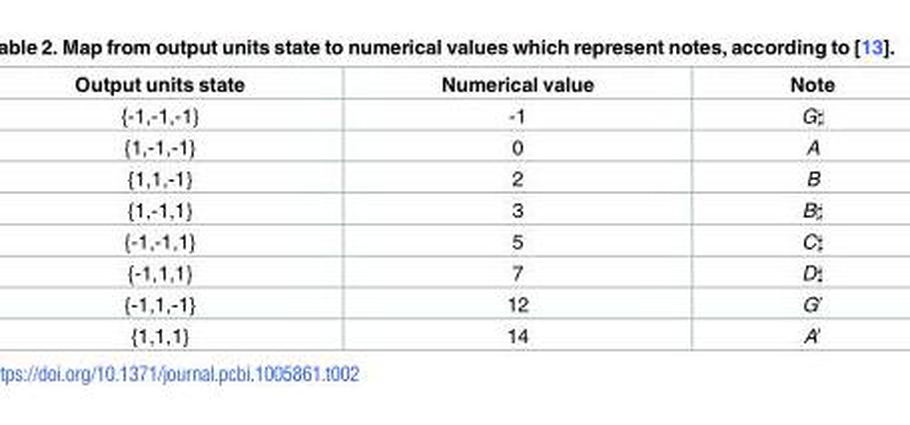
<table><thead><tr><td>Output units state</td><td>Numerical value</td><td>Note</td></tr></thead><tbody><tr><td>{-1,-1,-1}</td><td>-1</td><td>G♯</td></tr><tr><td>{1,-1,-1}</td><td>0</td><td>A</td></tr><tr><td>{1,1,-1}</td><td>2</td><td>B</td></tr><tr><td>{1,-1,1}</td><td>3</td><td>B♯</td></tr><tr><td>{-1,-1,1}</td><td>5</td><td>C♯</td></tr><tr><td>{-1,1,1}</td><td>7</td><td>D♯</td></tr><tr><td>{-1,1,-1}</td><td>12</td><td>G′</td></tr><tr><td>{1,1,1}</td><td>14</td><td>A′</td></tr></tbody></table>